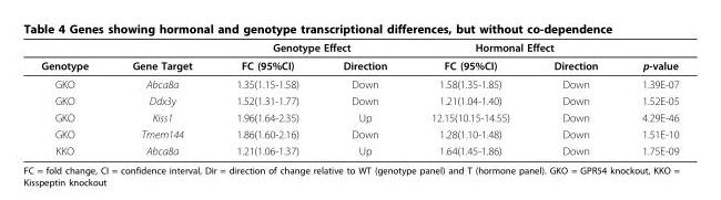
<table><thead><tr><td rowspan="2">Genotype</td><td rowspan="2">Gene Target</td><td colspan="2">Genotype Effect</td><td colspan="2">Hormonal Effect</td><td rowspan="2">p-value</td></tr><tr><td>FC (95%CI)</td><td>Direction</td><td>FC (95%CI)</td><td>Direction</td></tr></thead><tbody><tr><td>GKO</td><td>Abca8a</td><td>1.35(1.15-1.58)</td><td>Down</td><td>1.58(1.35-1.85)</td><td>Down</td><td>1.39E-07</td></tr><tr><td>GKO</td><td>Ddx3y</td><td>1.52(1.31-1.77)</td><td>Down</td><td>1.21(1.04-1.40)</td><td>Down</td><td>1.52E-05</td></tr><tr><td>GKO</td><td>Kiss1</td><td>1.96(1.64-2.35)</td><td>Up</td><td>12.15(10.15-14.55)</td><td>Down</td><td>4.29E-46</td></tr><tr><td>GKO</td><td>Tmem144</td><td>1.86(1.60-2.16)</td><td>Down</td><td>1.28(1.10-1.48)</td><td>Down</td><td>1.51E-10</td></tr><tr><td>KKO</td><td>Abca8a</td><td>1.21(1.06-1.37)</td><td>Up</td><td>1.64(1.45-1.86)</td><td>Down</td><td>1.75E-09</td></tr></tbody></table>